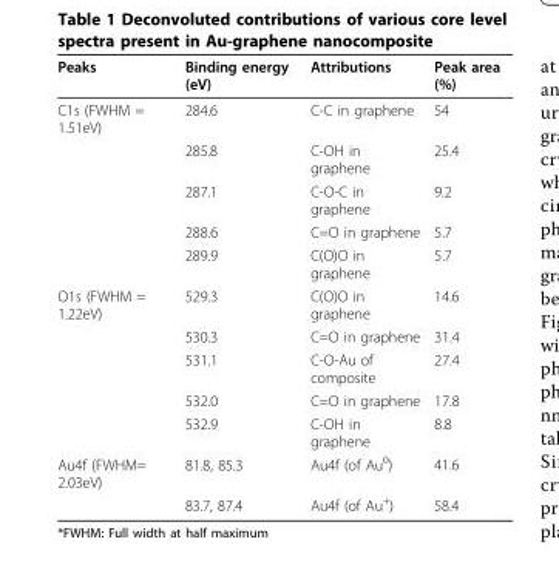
<table><thead><tr><td>Peaks</td><td>Binding energy (eV)</td><td>Attributions</td><td>Peak area (%)</td></tr></thead><tbody><tr><td rowspan="5">C1s (FWHM = 1.51eV)</td><td>284.6</td><td>C-C in graphene</td><td>54</td></tr><tr><td>285.8</td><td>C-OH in graphene</td><td>25.4</td></tr><tr><td>287.1</td><td>C-O-C in graphene</td><td>9.2</td></tr><tr><td>288.6</td><td>C=O in graphene</td><td>5.7</td></tr><tr><td>289.9</td><td>C(O)O in graphene</td><td>5.7</td></tr><tr><td rowspan="5">O1s (FWHM = 1.22eV)</td><td>529.3</td><td>C(O)O in graphene</td><td>14.6</td></tr><tr><td>530.3</td><td>C=O in graphene</td><td>31.4</td></tr><tr><td>531.1</td><td>C-O-Au of composite</td><td>27.4</td></tr><tr><td>532.0</td><td>C=O in graphene</td><td>17.8</td></tr><tr><td>532.9</td><td>C-OH in graphene</td><td>8.8</td></tr><tr><td rowspan="2">Au4f (FWHM= 2.03eV)</td><td>81.8, 85.3</td><td>Au4f (of Au<sup>0</sup>)</td><td>41.6</td></tr><tr><td>83.7, 87.4</td><td>Au4f (of Au<sup>+</sup>)</td><td>58.4</td></tr></tbody></table>